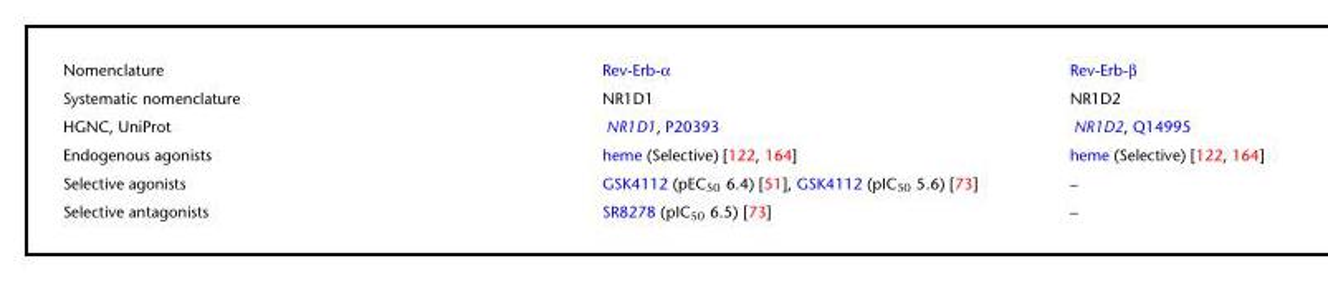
<table><tbody><tr><td>Nomenclature</td><td>Rev-Erb-α</td><td>Rev-Erb-β</td></tr><tr><td>Systematic nomenclature</td><td>NR1D1</td><td>NR1D2</td></tr><tr><td>HGNC, UniProt</td><td>NR1D1, P20393</td><td>NR1D2, Q14995</td></tr><tr><td>Endogenous agonists</td><td>heme (Selective) [122, 164]</td><td>heme (Selective) [122, 164]</td></tr><tr><td>Selective agonists</td><td>GSK4112 (pEC<sub>50</sub> 6.4) [51], GSK4112 (pIC<sub>50</sub> 5.6) [73]</td><td>–</td></tr><tr><td>Selective antagonists</td><td>SR8278 (pIC<sub>50</sub> 6.5) [73]</td><td>–</td></tr></tbody></table>